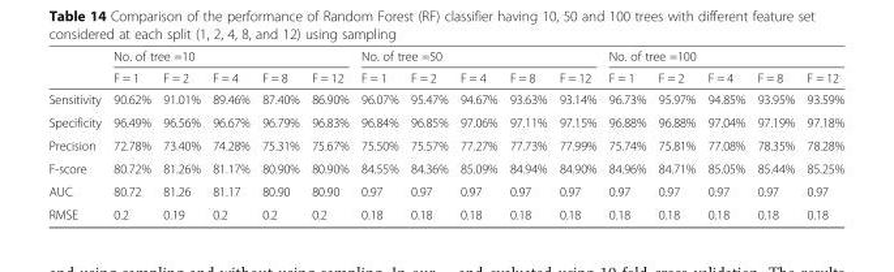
<table><thead><tr><td rowspan="2"></td><td colspan="5">No. of tree =10</td><td colspan="5">No. of tree =50</td><td colspan="5">No. of tree =100</td></tr><tr><td>F = 1</td><td>F = 2</td><td>F = 4</td><td>F = 8</td><td>F = 12</td><td>F = 1</td><td>F = 2</td><td>F = 4</td><td>F = 8</td><td>F = 12</td><td>F = 1</td><td>F = 2</td><td>F = 4</td><td>F = 8</td><td>F = 12</td></tr></thead><tbody><tr><td>Sensitivity</td><td>90.62%</td><td>91.01%</td><td>89.46%</td><td>87.40%</td><td>86.90%</td><td>96.07%</td><td>95.47%</td><td>94.67%</td><td>93.63%</td><td>93.14%</td><td>96.73%</td><td>95.97%</td><td>94.85%</td><td>93.95%</td><td>93.59%</td></tr><tr><td>Specificity</td><td>96.49%</td><td>96.56%</td><td>96.67%</td><td>96.79%</td><td>96.83%</td><td>96.84%</td><td>96.85%</td><td>97.06%</td><td>97.11%</td><td>97.15%</td><td>96.88%</td><td>96.88%</td><td>97.04%</td><td>97.19%</td><td>97.18%</td></tr><tr><td>Precision</td><td>72.78%</td><td>73.40%</td><td>74.28%</td><td>75.31%</td><td>75.67%</td><td>75.50%</td><td>75.57%</td><td>77.27%</td><td>77.73%</td><td>77.99%</td><td>75.74%</td><td>75.81%</td><td>77.08%</td><td>78.35%</td><td>78.28%</td></tr><tr><td>F-score</td><td>80.72%</td><td>81.26%</td><td>81.17%</td><td>80.90%</td><td>80.90%</td><td>84.55%</td><td>84.36%</td><td>85.09%</td><td>84.94%</td><td>84.90%</td><td>84.96%</td><td>84.71%</td><td>85.05%</td><td>85.44%</td><td>85.25%</td></tr><tr><td>AUC</td><td>80.72</td><td>81.26</td><td>81.17</td><td>80.90</td><td>80.90</td><td>0.97</td><td>0.97</td><td>0.97</td><td>0.97</td><td>0.97</td><td>0.97</td><td>0.97</td><td>0.97</td><td>0.97</td><td>0.97</td></tr><tr><td>RMSE</td><td>0.2</td><td>0.19</td><td>0.2</td><td>0.2</td><td>0.2</td><td>0.18</td><td>0.18</td><td>0.18</td><td>0.18</td><td>0.18</td><td>0.18</td><td>0.18</td><td>0.18</td><td>0.18</td><td>0.18</td></tr></tbody></table>